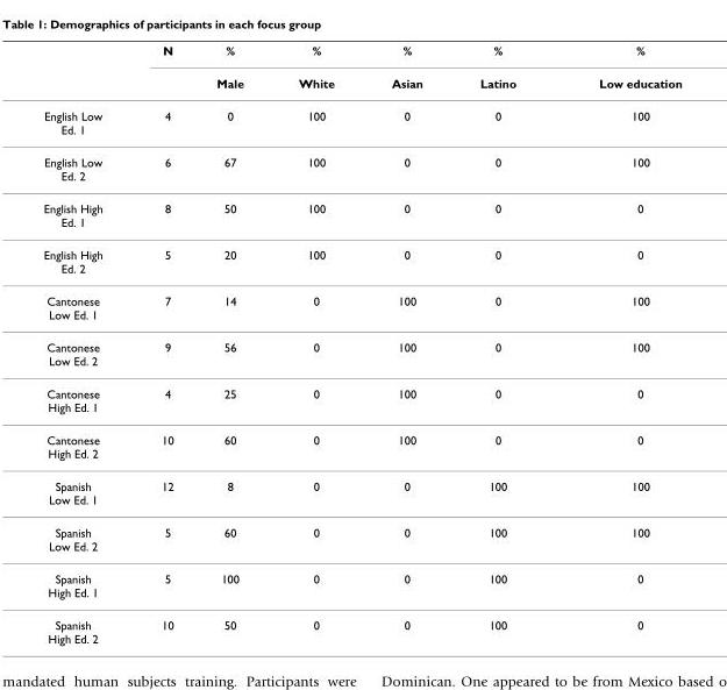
<table><thead><tr><td rowspan="2"></td><td rowspan="2">N</td><td rowspan="2">% Male</td><td rowspan="2">% White</td><td rowspan="2">% Asian</td><td rowspan="2">% Latino</td><td rowspan="2">% Low education</td></tr><tr></tr></thead><tbody><tr><td>English Low Ed. 1</td><td>4</td><td>0</td><td>100</td><td>0</td><td>0</td><td>100</td></tr><tr><td>English Low Ed. 2</td><td>6</td><td>67</td><td>100</td><td>0</td><td>0</td><td>100</td></tr><tr><td>English High Ed. 1</td><td>8</td><td>50</td><td>100</td><td>0</td><td>0</td><td>0</td></tr><tr><td>English High Ed. 2</td><td>5</td><td>20</td><td>100</td><td>0</td><td>0</td><td>0</td></tr><tr><td>Cantonese Low Ed. 1</td><td>7</td><td>14</td><td>0</td><td>100</td><td>0</td><td>100</td></tr><tr><td>Cantonese Low Ed. 2</td><td>9</td><td>56</td><td>0</td><td>100</td><td>0</td><td>100</td></tr><tr><td>Cantonese High Ed. 1</td><td>4</td><td>25</td><td>0</td><td>100</td><td>0</td><td>0</td></tr><tr><td>Cantonese High Ed. 2</td><td>10</td><td>60</td><td>0</td><td>100</td><td>0</td><td>0</td></tr><tr><td>Spanish Low Ed. 1</td><td>12</td><td>8</td><td>0</td><td>0</td><td>100</td><td>100</td></tr><tr><td>Spanish Low Ed. 2</td><td>5</td><td>60</td><td>0</td><td>0</td><td>100</td><td>100</td></tr><tr><td>Spanish High Ed. 1</td><td>5</td><td>100</td><td>0</td><td>0</td><td>100</td><td>0</td></tr><tr><td>Spanish High Ed. 2</td><td>10</td><td>50</td><td>0</td><td>0</td><td>100</td><td>0</td></tr></tbody></table>